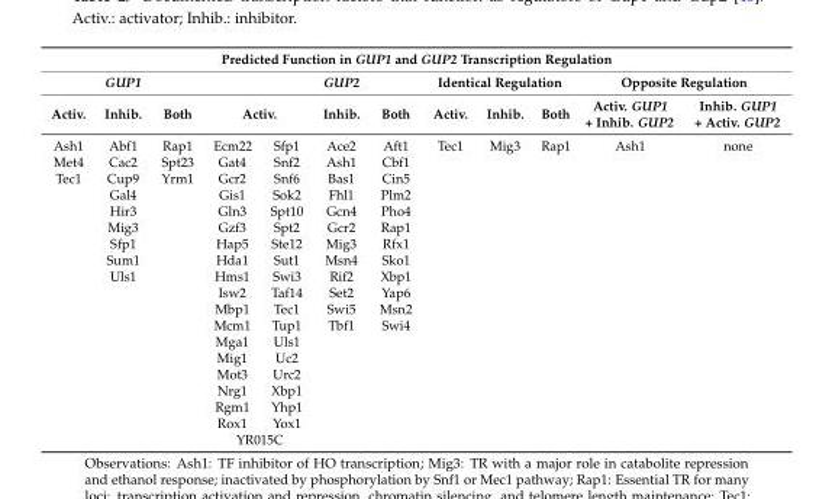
<table><thead><tr><td colspan="12">Predicted Function in GUP1 and GUP2 Transcription Regulation</td></tr><tr><td colspan="3">GUP1</td><td></td><td colspan="3">GUP2</td><td colspan="3">Identical Regulation</td><td colspan="2">Opposite Regulation</td></tr><tr><td rowspan="2">Activ. Ash1</td><td rowspan="2">Inhib. Abf1</td><td rowspan="2">Both Rap1</td><td colspan="2">Activ.</td><td rowspan="2">Inhib. Ace2</td><td rowspan="2">Both Aft1</td><td rowspan="2">Activ. Tec1</td><td rowspan="2">Inhib. Mig3</td><td rowspan="2">Both Rap1</td><td rowspan="2">Activ. GUP1 + Inhib. GUP2 Ash1</td><td rowspan="2">Inhib. GUP1 + Activ. GUP2 none</td></tr><tr><td>Ecm22</td><td>Sfp1</td></tr></thead><tbody><tr><td>Met4</td><td>Cac2</td><td>Spt23</td><td>Gat4</td><td>Snf2</td><td>Ash1</td><td>Cbf1</td><td></td><td></td><td></td><td></td><td></td></tr><tr><td rowspan="17">Tec1</td><td>Cup9</td><td>Yrm1</td><td>Gcr2</td><td>Snf6</td><td>Bas1</td><td>Cin5</td><td></td><td></td><td></td><td></td><td></td></tr><tr><td>Gal4</td><td></td><td>Gis1</td><td>Sok2</td><td>Fhl1</td><td>Plm2</td><td></td><td></td><td></td><td></td><td></td></tr><tr><td>Hir3</td><td></td><td>Gln3</td><td>Spt10</td><td>Gcn4</td><td>Pho4</td><td></td><td></td><td></td><td></td><td></td></tr><tr><td>Mig3</td><td></td><td>Gzf3</td><td>Spt2</td><td>Gcr2</td><td>Rap1</td><td></td><td></td><td></td><td></td><td></td></tr><tr><td>Sfp1</td><td></td><td>Hap5</td><td>Ste12</td><td>Mig3</td><td>Rfx1</td><td></td><td></td><td></td><td></td><td></td></tr><tr><td>Sum1</td><td></td><td>Hda1</td><td>Sut1</td><td>Msn4</td><td>Sko1</td><td></td><td></td><td></td><td></td><td></td></tr><tr><td>Uls1</td><td></td><td>Hms1</td><td>Swi3</td><td>Rif2</td><td>Xbp1</td><td></td><td></td><td></td><td></td><td></td></tr><tr><td></td><td></td><td>Isw2</td><td>Taf14</td><td>Set2</td><td>Yap6</td><td></td><td></td><td></td><td></td><td></td></tr><tr><td></td><td></td><td>Mbp1</td><td>Tec1</td><td>Swi5</td><td>Msn2</td><td></td><td></td><td></td><td></td><td></td></tr><tr><td></td><td></td><td>Mcm1</td><td>Tup1</td><td>Tbf1</td><td>Swi4</td><td></td><td></td><td></td><td></td><td></td></tr><tr><td></td><td></td><td>Mga1</td><td>Uls1</td><td></td><td></td><td></td><td></td><td></td><td></td><td></td></tr><tr><td></td><td></td><td>Mig1</td><td>Uc2</td><td></td><td></td><td></td><td></td><td></td><td></td><td></td></tr><tr><td></td><td></td><td>Mot3</td><td>Urc2</td><td></td><td></td><td></td><td></td><td></td><td></td><td></td></tr><tr><td></td><td></td><td>Nrg1</td><td>Xbp1</td><td></td><td></td><td></td><td></td><td></td><td></td><td></td></tr><tr><td></td><td></td><td>Rgm1</td><td>Yhp1</td><td></td><td></td><td></td><td></td><td></td><td></td><td></td></tr><tr><td></td><td></td><td>Rox1</td><td>Yox1</td><td></td><td></td><td></td><td></td><td></td><td></td><td></td></tr><tr><td></td><td></td><td colspan="2">YR015C</td><td></td><td></td><td></td><td></td><td></td><td></td><td></td></tr></tbody></table>